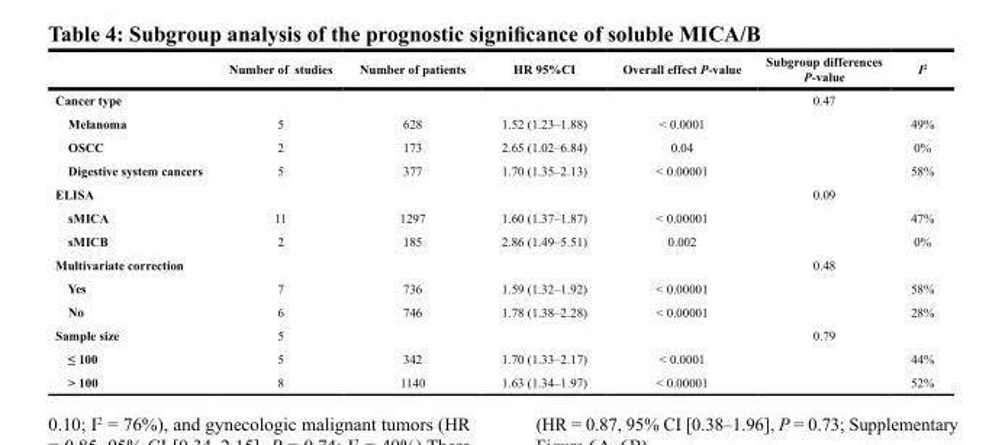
<table><thead><tr><td></td><td>Number of studies</td><td>Number of patients</td><td>HR 95%CI</td><td>Overall effect P-value</td><td>Subgroup differences P-value</td><td>I<sup>2</sup></td></tr></thead><tbody><tr><td>Cancer type</td><td></td><td></td><td></td><td></td><td>0.47</td><td></td></tr><tr><td>Melanoma</td><td>5</td><td>628</td><td>1.52 (1.23–1.88)</td><td>&lt; 0.0001</td><td></td><td>49%</td></tr><tr><td>OSCC</td><td>2</td><td>173</td><td>2.65 (1.02–6.84)</td><td>0.04</td><td></td><td>0%</td></tr><tr><td>Digestive system cancers</td><td>5</td><td>377</td><td>1.70 (1.35–2.13)</td><td>&lt; 0.00001</td><td></td><td>58%</td></tr><tr><td>ELISA</td><td></td><td></td><td></td><td></td><td>0.09</td><td></td></tr><tr><td>sMICA</td><td>11</td><td>1297</td><td>1.60 (1.37–1.87)</td><td>&lt; 0.00001</td><td></td><td>47%</td></tr><tr><td>sMICB</td><td>2</td><td>185</td><td>2.86 (1.49–5.51)</td><td>0.002</td><td></td><td>0%</td></tr><tr><td>Multivariate correction</td><td></td><td></td><td></td><td></td><td>0.48</td><td></td></tr><tr><td>Yes</td><td>7</td><td>736</td><td>1.59 (1.32–1.92)</td><td>&lt; 0.00001</td><td></td><td>58%</td></tr><tr><td>No</td><td>6</td><td>746</td><td>1.78 (1.38–2.28)</td><td>&lt; 0.00001</td><td></td><td>28%</td></tr><tr><td>Sample size</td><td>5</td><td></td><td></td><td></td><td>0.79</td><td></td></tr><tr><td>≤ 100</td><td>5</td><td>342</td><td>1.70 (1.33–2.17)</td><td>&lt; 0.0001</td><td></td><td>44%</td></tr><tr><td>&gt; 100</td><td>8</td><td>1140</td><td>1.63 (1.34–1.97)</td><td>&lt; 0.00001</td><td></td><td>52%</td></tr></tbody></table>